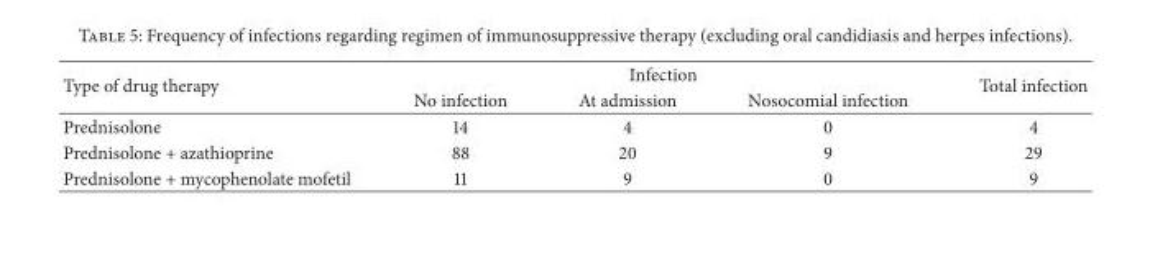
<table><thead><tr><td rowspan="2">Type of drug therapy</td><td colspan="3">Infection</td><td rowspan="2">Total infection</td></tr><tr><td>No infection</td><td>At admission</td><td>Nosocomial infection</td></tr></thead><tbody><tr><td>Prednisolone</td><td>14</td><td>4</td><td>0</td><td>4</td></tr><tr><td>Prednisolone + azathioprine</td><td>88</td><td>20</td><td>9</td><td>29</td></tr><tr><td>Prednisolone + mycophenolate mofetil</td><td>11</td><td>9</td><td>0</td><td>9</td></tr></tbody></table>